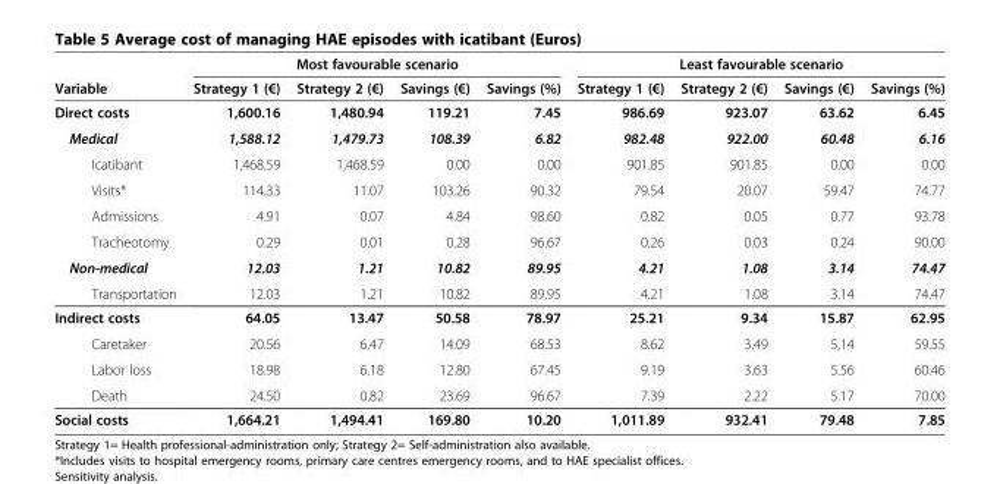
<table><thead><tr><td rowspan="2">Variable</td><td colspan="4">Most favourable scenario</td><td colspan="4">Least favourable scenario</td></tr><tr><td>Strategy 1 (€)</td><td>Strategy 2 (€)</td><td>Savings (€)</td><td>Savings (%)</td><td>Strategy 1 (€)</td><td>Strategy 2 (€)</td><td>Savings (€)</td><td>Savings (%)</td></tr></thead><tbody><tr><td>Direct costs</td><td>1,600.16</td><td>1,480.94</td><td>119.21</td><td>7.45</td><td>986.69</td><td>923.07</td><td>63.62</td><td>6.45</td></tr><tr><td>Medical</td><td>1,588.12</td><td>1,479.73</td><td>108.39</td><td>6.82</td><td>982.48</td><td>922.00</td><td>60.48</td><td>6.16</td></tr><tr><td>Icatibant</td><td>1,468.59</td><td>1,468.59</td><td>0.00</td><td>0.00</td><td>901.85</td><td>901.85</td><td>0.00</td><td>0.00</td></tr><tr><td>Visits*</td><td>114.33</td><td>11.07</td><td>103.26</td><td>90.32</td><td>79.54</td><td>20.07</td><td>59.47</td><td>74.77</td></tr><tr><td>Admissions</td><td>4.91</td><td>0.07</td><td>4.84</td><td>98.60</td><td>0.82</td><td>0.05</td><td>0.77</td><td>93.78</td></tr><tr><td>Tracheotomy</td><td>0.29</td><td>0.01</td><td>0.28</td><td>96.67</td><td>0.26</td><td>0.03</td><td>0.24</td><td>90.00</td></tr><tr><td>Non-medical</td><td>12.03</td><td>1.21</td><td>10.82</td><td>89.95</td><td>4.21</td><td>1.08</td><td>3.14</td><td>74.47</td></tr><tr><td>Transportation</td><td>12.03</td><td>1.21</td><td>10.82</td><td>89.95</td><td>4.21</td><td>1.08</td><td>3.14</td><td>74.47</td></tr><tr><td>Indirect costs</td><td>64.05</td><td>13.47</td><td>50.58</td><td>78.97</td><td>25.21</td><td>9.34</td><td>15.87</td><td>62.95</td></tr><tr><td>Caretaker</td><td>20.56</td><td>6.47</td><td>14.09</td><td>68.53</td><td>8.62</td><td>3.49</td><td>5,14</td><td>59.55</td></tr><tr><td>Labor loss</td><td>18.98</td><td>6.18</td><td>12.80</td><td>67.45</td><td>9.19</td><td>3.63</td><td>5.56</td><td>60.46</td></tr><tr><td>Death</td><td>24.50</td><td>0.82</td><td>23.69</td><td>96.67</td><td>7.39</td><td>2.22</td><td>5.17</td><td>70.00</td></tr><tr><td>Social costs</td><td>1,664.21</td><td>1,494.41</td><td>169.80</td><td>10.20</td><td>1,011.89</td><td>932.41</td><td>79.48</td><td>7.85</td></tr></tbody></table>